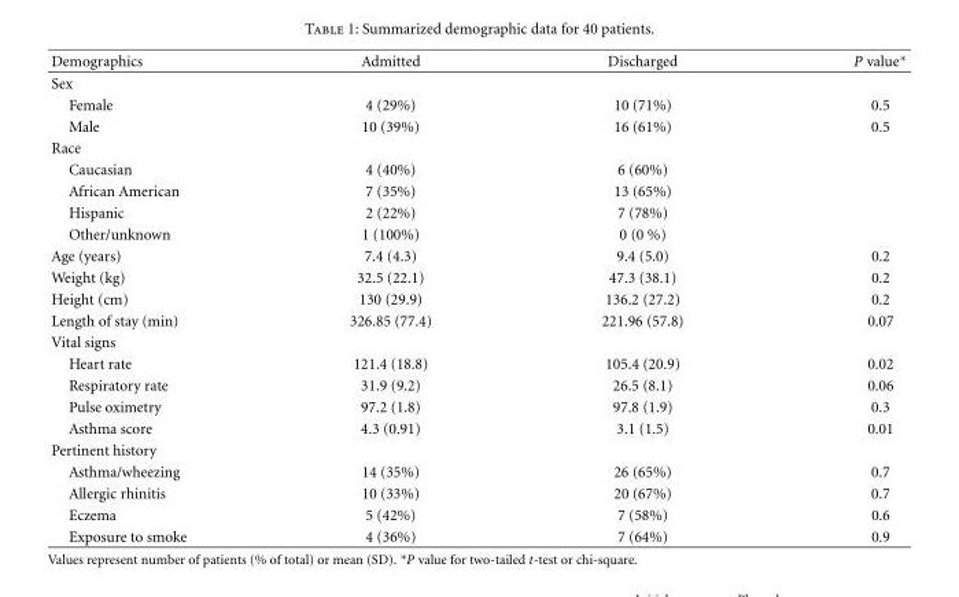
<table><thead><tr><td>Demographics</td><td>Admitted</td><td>Discharged</td><td>P value∗</td></tr></thead><tbody><tr><td colspan="4">Sex</td></tr><tr><td>Female</td><td>4 (29%)</td><td>10 (71%)</td><td>0.5</td></tr><tr><td>Male</td><td>10 (39%)</td><td>16 (61%)</td><td>0.5</td></tr><tr><td colspan="4">Race</td></tr><tr><td>Caucasian</td><td>4 (40%)</td><td>6 (60%)</td><td></td></tr><tr><td>African American</td><td>7 (35%)</td><td>13 (65%)</td><td></td></tr><tr><td>Hispanic</td><td>2 (22%)</td><td>7 (78%)</td><td></td></tr><tr><td>Other/unknown</td><td>1 (100%)</td><td>0 (0 %)</td><td></td></tr><tr><td>Age (years)</td><td>7.4 (4.3)</td><td>9.4 (5.0)</td><td>0.2</td></tr><tr><td>Weight (kg)</td><td>32.5 (22.1)</td><td>47.3 (38.1)</td><td>0.2</td></tr><tr><td>Height (cm)</td><td>130 (29.9)</td><td>136.2 (27.2)</td><td>0.2</td></tr><tr><td>Length of stay (min)</td><td>326.85 (77.4)</td><td>221.96 (57.8)</td><td>0.07</td></tr><tr><td colspan="4">Vital signs</td></tr><tr><td>Heart rate</td><td>121.4 (18.8)</td><td>105.4 (20.9)</td><td>0.02</td></tr><tr><td>Respiratory rate</td><td>31.9 (9.2)</td><td>26.5 (8.1)</td><td>0.06</td></tr><tr><td>Pulse oximetry</td><td>97.2 (1.8)</td><td>97.8 (1.9)</td><td>0.3</td></tr><tr><td>Asthma score</td><td>4.3 (0.91)</td><td>3.1 (1.5)</td><td>0.01</td></tr><tr><td colspan="4">Pertinent history</td></tr><tr><td>Asthma/wheezing</td><td>14 (35%)</td><td>26 (65%)</td><td>0.7</td></tr><tr><td>Allergic rhinitis</td><td>10 (33%)</td><td>20 (67%)</td><td>0.7</td></tr><tr><td>Eczema</td><td>5 (42%)</td><td>7 (58%)</td><td>0.6</td></tr><tr><td>Exposure to smoke</td><td>4 (36%)</td><td>7 (64%)</td><td>0.9</td></tr></tbody></table>